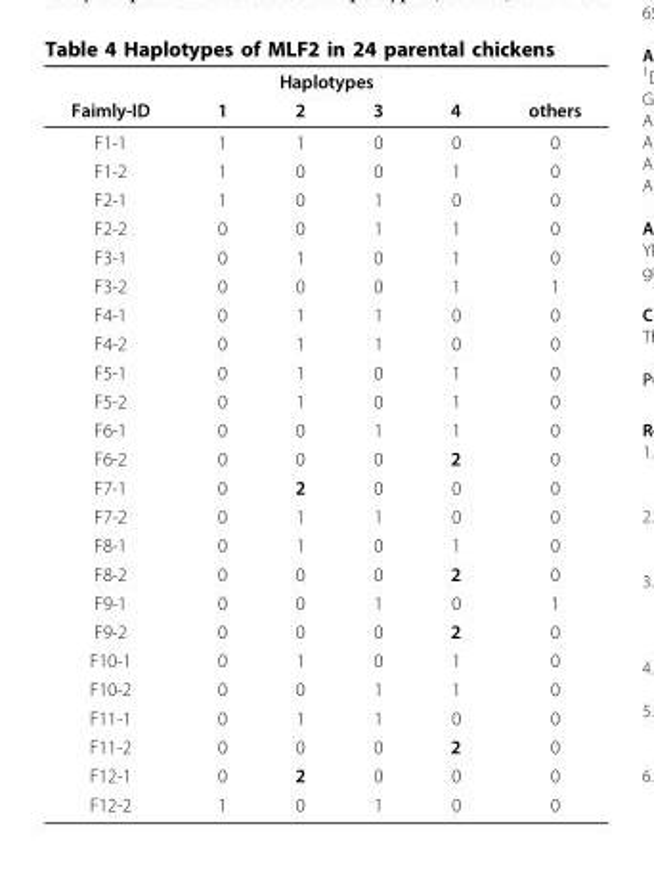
<table><thead><tr><td colspan="6">Haplotypes</td></tr><tr><td>Faimly-ID</td><td>1</td><td>2</td><td>3</td><td>4</td><td>others</td></tr></thead><tbody><tr><td>F1-1</td><td>1</td><td>1</td><td>0</td><td>0</td><td>0</td></tr><tr><td>F1-2</td><td>1</td><td>0</td><td>0</td><td>1</td><td>0</td></tr><tr><td>F2-1</td><td>1</td><td>0</td><td>1</td><td>0</td><td>0</td></tr><tr><td>F2-2</td><td>0</td><td>0</td><td>1</td><td>1</td><td>0</td></tr><tr><td>F3-1</td><td>0</td><td>1</td><td>0</td><td>1</td><td>0</td></tr><tr><td>F3-2</td><td>0</td><td>0</td><td>0</td><td>1</td><td>1</td></tr><tr><td>F4-1</td><td>0</td><td>1</td><td>1</td><td>0</td><td>0</td></tr><tr><td>F4-2</td><td>0</td><td>1</td><td>1</td><td>0</td><td>0</td></tr><tr><td>F5-1</td><td>0</td><td>1</td><td>0</td><td>1</td><td>0</td></tr><tr><td>F5-2</td><td>0</td><td>1</td><td>0</td><td>1</td><td>0</td></tr><tr><td>F6-1</td><td>0</td><td>0</td><td>1</td><td>1</td><td>0</td></tr><tr><td>F6-2</td><td>0</td><td>0</td><td>0</td><td>2</td><td>0</td></tr><tr><td>F7-1</td><td>0</td><td>2</td><td>0</td><td>0</td><td>0</td></tr><tr><td>F7-2</td><td>0</td><td>1</td><td>1</td><td>0</td><td>0</td></tr><tr><td>F8-1</td><td>0</td><td>1</td><td>0</td><td>1</td><td>0</td></tr><tr><td>F8-2</td><td>0</td><td>0</td><td>0</td><td>2</td><td>0</td></tr><tr><td>F9-1</td><td>0</td><td>0</td><td>1</td><td>0</td><td>1</td></tr><tr><td>F9-2</td><td>0</td><td>0</td><td>0</td><td>2</td><td>0</td></tr><tr><td>F10-1</td><td>0</td><td>1</td><td>0</td><td>1</td><td>0</td></tr><tr><td>F10-2</td><td>0</td><td>0</td><td>1</td><td>1</td><td>0</td></tr><tr><td>F11-1</td><td>0</td><td>1</td><td>1</td><td>0</td><td>0</td></tr><tr><td>F11-2</td><td>0</td><td>0</td><td>0</td><td>2</td><td>0</td></tr><tr><td>F12-1</td><td>0</td><td>2</td><td>0</td><td>0</td><td>0</td></tr><tr><td>F12-2</td><td>1</td><td>0</td><td>1</td><td>0</td><td>0</td></tr></tbody></table>